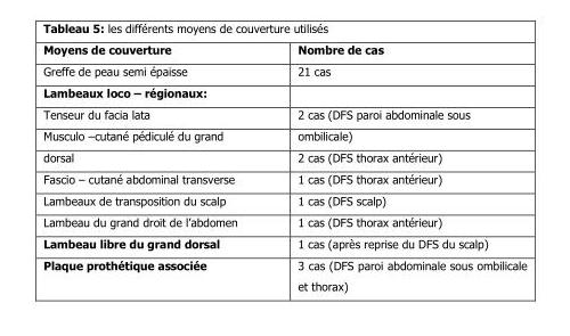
<table><thead><tr><td>Moyens de couverture</td><td>Nombre de cas</td></tr></thead><tbody><tr><td>Greffe de peau semi épaisse</td><td>21 cas</td></tr><tr><td colspan="2">Lambeaux loco – régionaux:</td></tr><tr><td>Tenseur du facia lata</td><td>2 cas (DFS paroi abdominale sous</td></tr><tr><td>Musculo –cutané pédiculé du grand</td><td>ombilicale)</td></tr><tr><td>dorsal</td><td>2 cas (DFS thorax antérieur)</td></tr><tr><td>Fascio – cutané abdominal transverse</td><td>1 cas (DFS thorax antérieur)</td></tr><tr><td>Lambeaux de transposition du scalp</td><td>1 cas (DFS scalp)</td></tr><tr><td>Lambeau du grand droit de l’abdomen</td><td>1 cas (DFS thorax antérieur)</td></tr><tr><td>Lambeau libre du grand dorsal</td><td>1 cas (après reprise du DFS du scalp)</td></tr><tr><td>Plaque prothétique associée</td><td>3 cas (DFS paroi abdominale sous ombilicale et thorax)</td></tr></tbody></table>